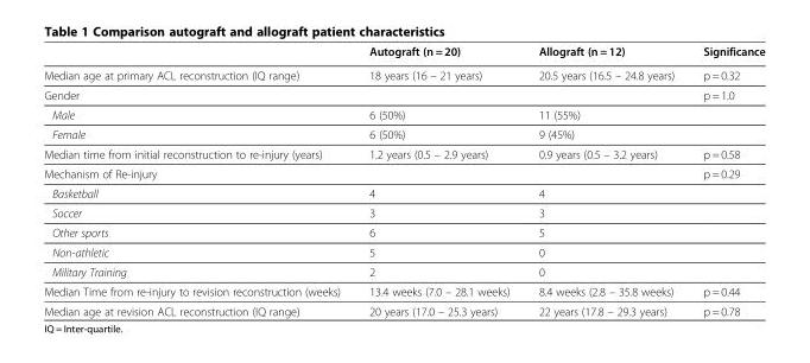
<table><thead><tr><td></td><td>Autograft (n = 20)</td><td>Allograft (n = 12)</td><td>Significance</td></tr></thead><tbody><tr><td>Median age at primary ACL reconstruction (IQ range)</td><td>18 years (16 – 21 years)</td><td>20.5 years (16.5 – 24.8 years)</td><td>p = 0.32</td></tr><tr><td>Gender</td><td></td><td></td><td>p = 1.0</td></tr><tr><td>Male</td><td>6 (50%)</td><td>11 (55%)</td><td></td></tr><tr><td>Female</td><td>6 (50%)</td><td>9 (45%)</td><td></td></tr><tr><td>Median time from initial reconstruction to re-injury (years)</td><td>1.2 years (0.5 – 2.9 years)</td><td>0.9 years (0.5 – 3.2 years)</td><td>p = 0.58</td></tr><tr><td>Mechanism of Re-injury</td><td></td><td></td><td>p = 0.29</td></tr><tr><td>Basketball</td><td>4</td><td>4</td><td></td></tr><tr><td>Soccer</td><td>3</td><td>3</td><td></td></tr><tr><td>Other sports</td><td>6</td><td>5</td><td></td></tr><tr><td>Non-athletic</td><td>5</td><td>0</td><td></td></tr><tr><td>Military Training</td><td>2</td><td>0</td><td></td></tr><tr><td>Median Time from re-injury to revision reconstruction (weeks)</td><td>13.4 weeks (7.0 – 28.1 weeks)</td><td>8.4 weeks (2.8 – 35.8 weeks)</td><td>p = 0.44</td></tr><tr><td>Median age at revision ACL reconstruction (IQ range)</td><td>20 years (17.0 – 25.3 years)</td><td>22 years (17.8 – 29.3 years)</td><td>p = 0.78</td></tr></tbody></table>